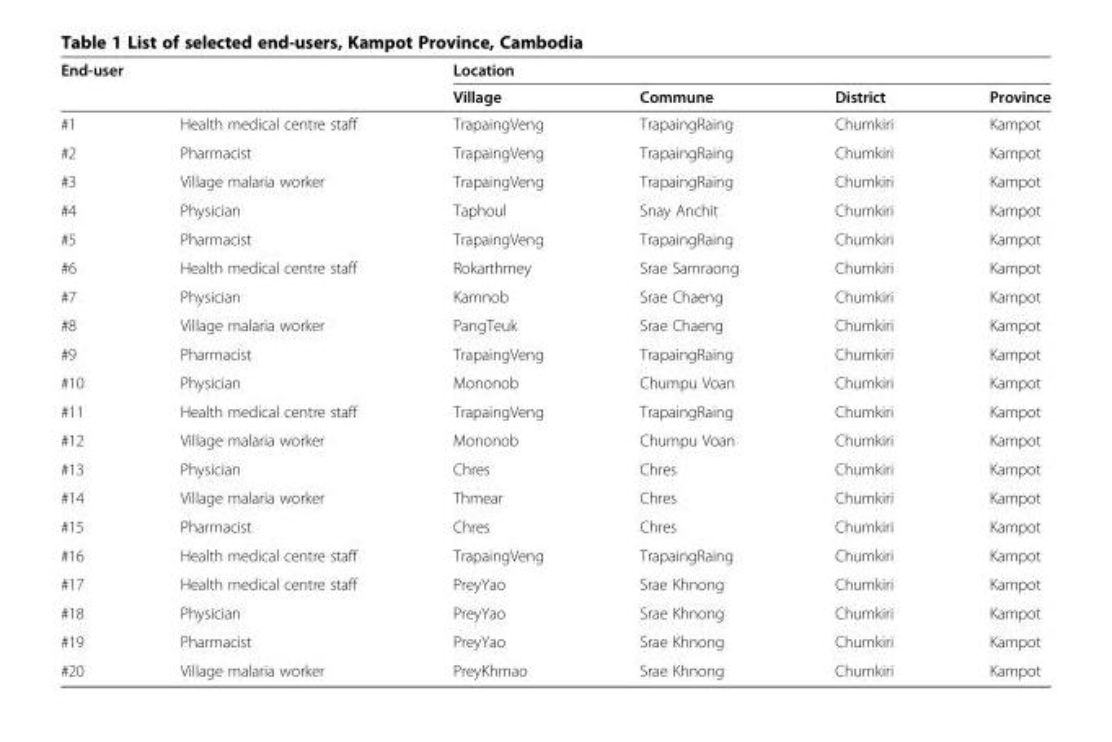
<table><thead><tr><td rowspan="2" colspan="2">End-user</td><td colspan="4">Location</td></tr><tr><td rowspan="2">Village TrapaingVeng</td><td rowspan="2">Commune TrapaingRaing</td><td rowspan="2">District Chumkiri</td><td rowspan="2">Province Kampot</td></tr><tr><td>#1</td><td>Health medical centre staff</td></tr></thead><tbody><tr><td>#2</td><td>Pharmacist</td><td>TrapaingVeng</td><td>TrapaingRaing</td><td>Chumkiri</td><td>Kampot</td></tr><tr><td>#3</td><td>Village malaria worker</td><td>TrapaingVeng</td><td>TrapaingRaing</td><td>Chumkiri</td><td>Kampot</td></tr><tr><td>#4</td><td>Physician</td><td>Taphoul</td><td>Snay Anchit</td><td>Chumkiri</td><td>Kampot</td></tr><tr><td>#5</td><td>Pharmacist</td><td>TrapaingVeng</td><td>TrapaingRaing</td><td>Chumkiri</td><td>Kampot</td></tr><tr><td>#6</td><td>Health medical centre staff</td><td>Rokarthmey</td><td>Srae Samraong</td><td>Chumkiri</td><td>Kampot</td></tr><tr><td>#7</td><td>Physician</td><td>Kamnob</td><td>Srae Chaeng</td><td>Chumkiri</td><td>Kampot</td></tr><tr><td>#8</td><td>Village malaria worker</td><td>PangTeuk</td><td>Srae Chaeng</td><td>Chumkiri</td><td>Kampot</td></tr><tr><td>#9</td><td>Pharmacist</td><td>TrapaingVeng</td><td>TrapaingRaing</td><td>Chumkiri</td><td>Kampot</td></tr><tr><td>#10</td><td>Physician</td><td>Mononob</td><td>Chumpu Voan</td><td>Chumkiri</td><td>Kampot</td></tr><tr><td>#11</td><td>Health medical centre staff</td><td>TrapaingVeng</td><td>TrapaingRaing</td><td>Chumkiri</td><td>Kampot</td></tr><tr><td>#12</td><td>Village malaria worker</td><td>Mononob</td><td>Chumpu Voan</td><td>Chumkiri</td><td>Kampot</td></tr><tr><td>#13</td><td>Physician</td><td>Chres</td><td>Chres</td><td>Chumkiri</td><td>Kampot</td></tr><tr><td>#14</td><td>Village malaria worker</td><td>Thmear</td><td>Chres</td><td>Chumkiri</td><td>Kampot</td></tr><tr><td>#15</td><td>Pharmacist</td><td>Chres</td><td>Chres</td><td>Chumkiri</td><td>Kampot</td></tr><tr><td>#16</td><td>Health medical centre staff</td><td>TrapaingVeng</td><td>TrapaingRaing</td><td>Chumkiri</td><td>Kampot</td></tr><tr><td>#17</td><td>Health medical centre staff</td><td>PreyYao</td><td>Srae Khnong</td><td>Chumkiri</td><td>Kampot</td></tr><tr><td>#18</td><td>Physician</td><td>PreyYao</td><td>Srae Khnong</td><td>Chumkiri</td><td>Kampot</td></tr><tr><td>#19</td><td>Pharmacist</td><td>PreyYao</td><td>Srae Khnong</td><td>Chumkiri</td><td>Kampot</td></tr><tr><td>#20</td><td>Village malaria worker</td><td>PreyKhmao</td><td>Srae Khnong</td><td>Chumkiri</td><td>Kampot</td></tr></tbody></table>